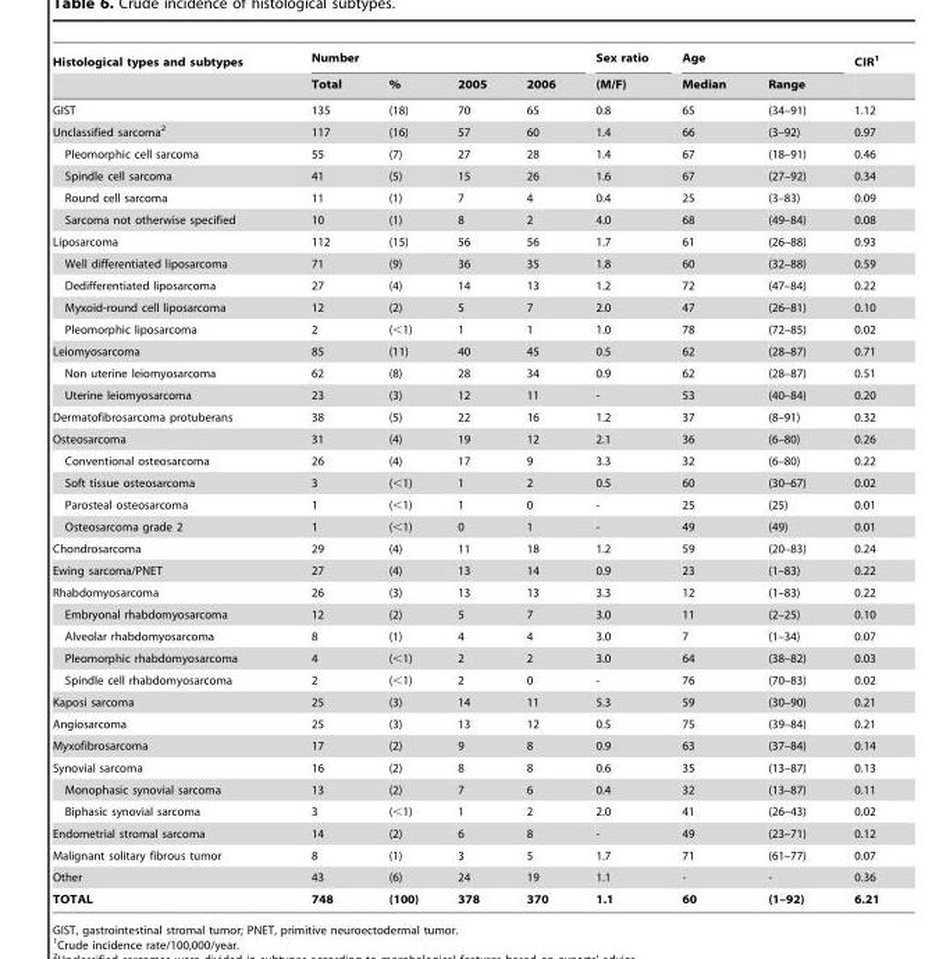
<table><thead><tr><td rowspan="2">Histological types and subtypes</td><td colspan="4">Number</td><td rowspan="2">Sex ratio (M/F)</td><td colspan="2">Age</td><td rowspan="2">CIR<sup>1</sup></td></tr><tr><td>Total</td><td>%</td><td>2005</td><td>2006</td><td>Median</td><td>Range</td></tr></thead><tbody><tr><td>GIST</td><td>135</td><td>(18)</td><td>70</td><td>65</td><td>0.8</td><td>65</td><td>(34–91)</td><td>1.12</td></tr><tr><td>Unclassified sarcoma<sup>2</sup></td><td>117</td><td>(16)</td><td>57</td><td>60</td><td>1.4</td><td>66</td><td>(3–92)</td><td>0.97</td></tr><tr><td>Pleomorphic cell sarcoma</td><td>55</td><td>(7)</td><td>27</td><td>28</td><td>1.4</td><td>67</td><td>(18–91)</td><td>0.46</td></tr><tr><td>Spindle cell sarcoma</td><td>41</td><td>(5)</td><td>15</td><td>26</td><td>1.6</td><td>67</td><td>(27–92)</td><td>0.34</td></tr><tr><td>Round cell sarcoma</td><td>11</td><td>(1)</td><td>7</td><td>4</td><td>0.4</td><td>25</td><td>(3–83)</td><td>0.09</td></tr><tr><td>Sarcoma not otherwise specified</td><td>10</td><td>(1)</td><td>8</td><td>2</td><td>4.0</td><td>68</td><td>(49–84)</td><td>0.08</td></tr><tr><td>Liposarcoma</td><td>112</td><td>(15)</td><td>56</td><td>56</td><td>1.7</td><td>61</td><td>(26–88)</td><td>0.93</td></tr><tr><td>Well differentiated liposarcoma</td><td>71</td><td>(9)</td><td>36</td><td>35</td><td>1.8</td><td>60</td><td>(32–88)</td><td>0.59</td></tr><tr><td>Dedifferentiated liposarcoma</td><td>27</td><td>(4)</td><td>14</td><td>13</td><td>1.2</td><td>72</td><td>(47–84)</td><td>0.22</td></tr><tr><td>Myxoid-round cell liposarcoma</td><td>12</td><td>(2)</td><td>5</td><td>7</td><td>2.0</td><td>47</td><td>(26–81)</td><td>0.10</td></tr><tr><td>Pleomorphic liposarcoma</td><td>2</td><td>(&lt;1)</td><td>1</td><td>1</td><td>1.0</td><td>78</td><td>(72–85)</td><td>0.02</td></tr><tr><td>Leiomyosarcoma</td><td>85</td><td>(11)</td><td>40</td><td>45</td><td>0.5</td><td>62</td><td>(28–87)</td><td>0.71</td></tr><tr><td>Non uterine leiomyosarcoma</td><td>62</td><td>(8)</td><td>28</td><td>34</td><td>0.9</td><td>62</td><td>(28–87)</td><td>0.51</td></tr><tr><td>Uterine leiomyosarcoma</td><td>23</td><td>(3)</td><td>12</td><td>11</td><td>-</td><td>53</td><td>(40–84)</td><td>0.20</td></tr><tr><td>Dermatofibrosarcoma protuberans</td><td>38</td><td>(5)</td><td>22</td><td>16</td><td>1.2</td><td>37</td><td>(8–91)</td><td>0.32</td></tr><tr><td>Osteosarcoma</td><td>31</td><td>(4)</td><td>19</td><td>12</td><td>2.1</td><td>36</td><td>(6–80)</td><td>0.26</td></tr><tr><td>Conventional osteosarcoma</td><td>26</td><td>(4)</td><td>17</td><td>9</td><td>3.3</td><td>32</td><td>(6–80)</td><td>0.22</td></tr><tr><td>Soft tissue osteosarcoma</td><td>3</td><td>(&lt;1)</td><td>1</td><td>2</td><td>0.5</td><td>60</td><td>(30–67)</td><td>0.02</td></tr><tr><td>Parosteal osteosarcoma</td><td>1</td><td>(&lt;1)</td><td>1</td><td>0</td><td>-</td><td>25</td><td>(25)</td><td>0.01</td></tr><tr><td>Osteosarcoma grade 2</td><td>1</td><td>(&lt;1)</td><td>0</td><td>1</td><td>-</td><td>49</td><td>(49)</td><td>0.01</td></tr><tr><td>Chondrosarcoma</td><td>29</td><td>(4)</td><td>11</td><td>18</td><td>1.2</td><td>59</td><td>(20–83)</td><td>0.24</td></tr><tr><td>Ewing sarcoma/PNET</td><td>27</td><td>(4)</td><td>13</td><td>14</td><td>0.9</td><td>23</td><td>(1–83)</td><td>0.22</td></tr><tr><td>Rhabdomyosarcoma</td><td>26</td><td>(3)</td><td>13</td><td>13</td><td>3.3</td><td>12</td><td>(1–83)</td><td>0.22</td></tr><tr><td>Embryonal rhabdomyosarcoma</td><td>12</td><td>(2)</td><td>5</td><td>7</td><td>3.0</td><td>11</td><td>(2–25)</td><td>0.10</td></tr><tr><td>Alveolar rhabdomyosarcoma</td><td>8</td><td>(1)</td><td>4</td><td>4</td><td>3.0</td><td>7</td><td>(1–34)</td><td>0.07</td></tr><tr><td>Pleomorphic rhabdomyosarcoma</td><td>4</td><td>(&lt;1)</td><td>2</td><td>2</td><td>3.0</td><td>64</td><td>(38–82)</td><td>0.03</td></tr><tr><td>Spindle cell rhabdomyosarcoma</td><td>2</td><td>(&lt;1)</td><td>2</td><td>0</td><td>-</td><td>76</td><td>(70–83)</td><td>0.02</td></tr><tr><td>Kaposi sarcoma</td><td>25</td><td>(3)</td><td>14</td><td>11</td><td>5.3</td><td>59</td><td>(30–90)</td><td>0.21</td></tr><tr><td>Angiosarcoma</td><td>25</td><td>(3)</td><td>13</td><td>12</td><td>0.5</td><td>75</td><td>(39–84)</td><td>0.21</td></tr><tr><td>Myxofibrosarcoma</td><td>17</td><td>(2)</td><td>9</td><td>8</td><td>0.9</td><td>63</td><td>(37–84)</td><td>0.14</td></tr><tr><td>Synovial sarcoma</td><td>16</td><td>(2)</td><td>8</td><td>8</td><td>0.6</td><td>35</td><td>(13–87)</td><td>0.13</td></tr><tr><td>Monophasic synovial sarcoma</td><td>13</td><td>(2)</td><td>7</td><td>6</td><td>0.4</td><td>32</td><td>(13–87)</td><td>0.11</td></tr><tr><td>Biphasic synovial sarcoma</td><td>3</td><td>(&lt;1)</td><td>1</td><td>2</td><td>2.0</td><td>41</td><td>(26–43)</td><td>0.02</td></tr><tr><td>Endometrial stromal sarcoma</td><td>14</td><td>(2)</td><td>6</td><td>8</td><td>-</td><td>49</td><td>(23–71)</td><td>0.12</td></tr><tr><td>Malignant solitary fibrous tumor</td><td>8</td><td>(1)</td><td>3</td><td>5</td><td>1.7</td><td>71</td><td>(61–77)</td><td>0.07</td></tr><tr><td>Other</td><td>43</td><td>(6)</td><td>24</td><td>19</td><td>1.1</td><td>-</td><td>-</td><td>0.36</td></tr><tr><td>TOTAL</td><td>748</td><td>(100)</td><td>378</td><td>370</td><td>1.1</td><td>60</td><td>(1–92)</td><td>6.21</td></tr></tbody></table>